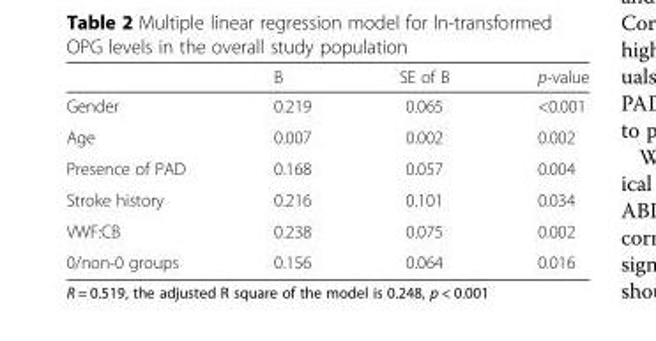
<table><thead><tr><td></td><td>B</td><td>SE of B</td><td>p-value</td></tr></thead><tbody><tr><td>Gender</td><td>0.219</td><td>0.065</td><td>&lt;0.001</td></tr><tr><td>Age</td><td>0.007</td><td>0.002</td><td>0.002</td></tr><tr><td>Presence of PAD</td><td>0.168</td><td>0.057</td><td>0.004</td></tr><tr><td>Stroke history</td><td>0.216</td><td>0.101</td><td>0.034</td></tr><tr><td>VWF:CB</td><td>0.238</td><td>0.075</td><td>0.002</td></tr><tr><td>0/non-0 groups</td><td>0.156</td><td>0.064</td><td>0.016</td></tr></tbody></table>